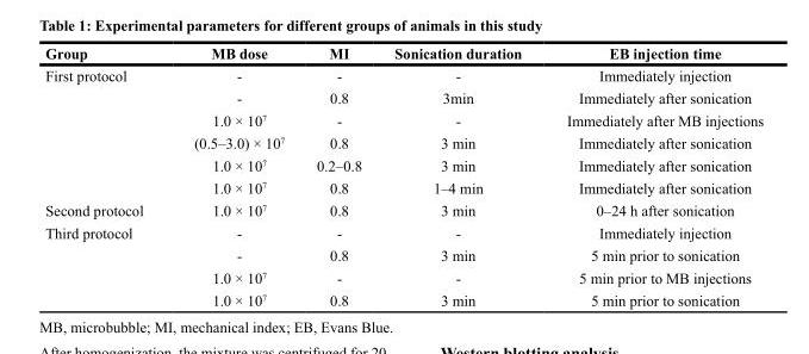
<table><thead><tr><td>Group</td><td>MB dose</td><td>MI</td><td>Sonication duration</td><td>EB injection time</td></tr></thead><tbody><tr><td rowspan="6">First protocol</td><td>-</td><td>-</td><td>-</td><td>Immediately injection</td></tr><tr><td>-</td><td>0.8</td><td>3min</td><td>Immediately after sonication</td></tr><tr><td>1.0 × 10<sup>7</sup></td><td>-</td><td>-</td><td>Immediately after MB injections</td></tr><tr><td>(0.5–3.0) × 10<sup>7</sup></td><td>0.8</td><td>3 min</td><td>Immediately after sonication</td></tr><tr><td>1.0 × 10<sup>7</sup></td><td>0.2–0.8</td><td>3 min</td><td>Immediately after sonication</td></tr><tr><td>1.0 × 10<sup>7</sup></td><td>0.8</td><td>1–4 min</td><td>Immediately after sonication</td></tr><tr><td>Second protocol</td><td>1.0 × 10<sup>7</sup></td><td>0.8</td><td>3 min</td><td>0–24 h after sonication</td></tr><tr><td rowspan="4">Third protocol</td><td>-</td><td>-</td><td>-</td><td>Immediately injection</td></tr><tr><td>-</td><td>0.8</td><td>3 min</td><td>5 min prior to sonication</td></tr><tr><td>1.0 × 10<sup>7</sup></td><td>-</td><td>-</td><td>5 min prior to MB injections</td></tr><tr><td>1.0 × 10<sup>7</sup></td><td>0.8</td><td>3 min</td><td>5 min prior to sonication</td></tr></tbody></table>